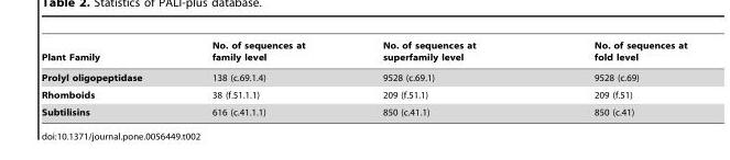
<table><thead><tr><td>Plant Family</td><td>No. of sequences at family level</td><td>No. of sequences at superfamily level</td><td>No. of sequences at fold level</td></tr></thead><tbody><tr><td>Prolyl oligopeptidase</td><td>138 (c.69.1.4)</td><td>9528 (c.69.1)</td><td>9528 (c.69)</td></tr><tr><td>Rhomboids</td><td>38 (f.51.1.1)</td><td>209 (f.51.1)</td><td>209 (f.51)</td></tr><tr><td>Subtilisins</td><td>616 (c.41.1.1)</td><td>850 (c.41.1)</td><td>850 (c.41)</td></tr></tbody></table>